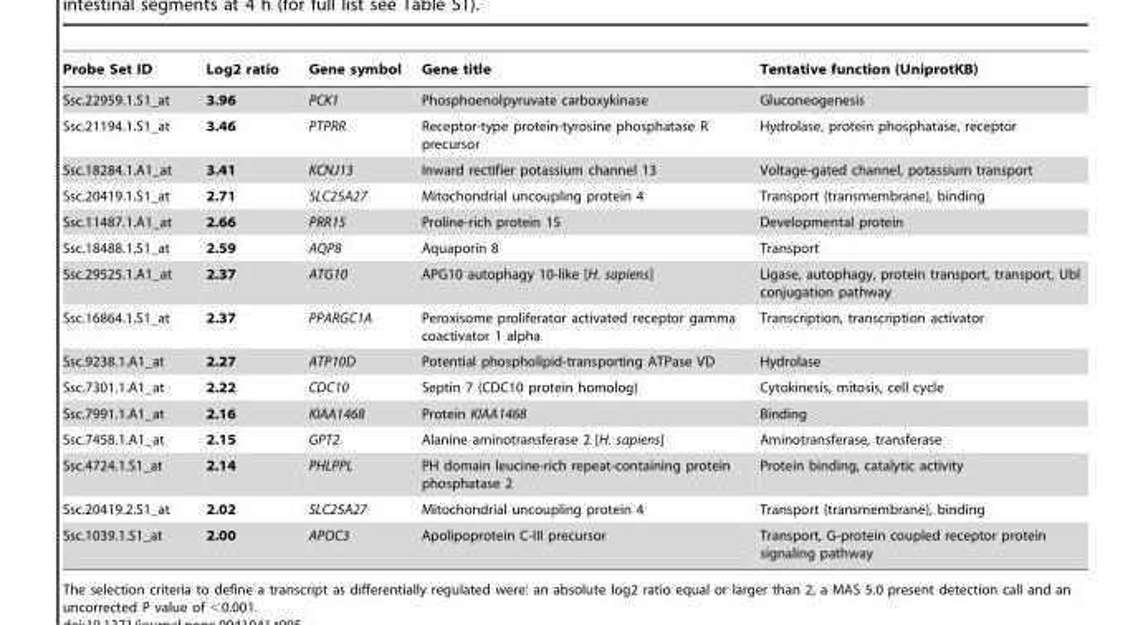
<table><thead><tr><td>Probe Set ID</td><td>Log2 ratio</td><td>Gene symbol</td><td>Gene title</td><td>Tentative function (UniprotKB)</td></tr></thead><tbody><tr><td>Ssc.22959.1.S1_at</td><td>3.96</td><td>PCK1</td><td>Phosphoenolpyruvate carboxykinase</td><td>Gluconeogenesis</td></tr><tr><td>Ssc.21194.1.S1_at</td><td>3.46</td><td>PTPRR</td><td>Receptor-type protein-tyrosine phosphatase R precursor</td><td>Hydrolase, protein phosphatase, receptor</td></tr><tr><td>Ssc.18284.1.A1_at</td><td>3.41</td><td>KCNJ13</td><td>Inward rectifier potassium channel 13</td><td>Voltage-gated channel, potassium transport</td></tr><tr><td>Ssc.20419.1.S1_at</td><td>2.71</td><td>SLC25A27</td><td>Mitochondrial uncoupling protein 4</td><td>Transport (transmembrane), binding</td></tr><tr><td>Ssc.11487.1.A1_at</td><td>2.66</td><td>PRR15</td><td>Proline-rich protein 15</td><td>Developmental protein</td></tr><tr><td>Ssc.18488.1.S1_at</td><td>2.59</td><td>AQP8</td><td>Aquaporin 8</td><td>Transport</td></tr><tr><td>Ssc.29525.1.A1_at</td><td>2.37</td><td>ATG10</td><td>APG10 autophagy 10-like [H. sapiens]</td><td>Ligase, autophagy, protein transport, transport, Ubl conjugation pathway</td></tr><tr><td>Ssc.16864.1.S1_at</td><td>2.37</td><td>PPARGC1A</td><td>Peroxisome proliferator activated receptor gamma coactivator 1 alpha</td><td>Transcription, transcription activator</td></tr><tr><td>Ssc.9238.1.A1_at</td><td>2.27</td><td>ATP10D</td><td>Potential phospholipid-transporting ATPase VD</td><td>Hydrolase</td></tr><tr><td>Ssc.7301.1.A1_at</td><td>2.22</td><td>CDC10</td><td>Septin 7 (CDC10 protein homolog)</td><td>Cytokinesis, mitosis, cell cycle</td></tr><tr><td>Ssc.7991.1.A1_at</td><td>2.16</td><td>KIAA1468</td><td>Protein KIAA1468</td><td>Binding</td></tr><tr><td>Ssc.7458.1.A1_at</td><td>2.15</td><td>GPT2</td><td>Alanine aminotransferase 2 [H. sapiens]</td><td>Aminotransferase, transferase</td></tr><tr><td>Ssc.4724.1.S1_at</td><td>2.14</td><td>PHLPPL</td><td>PH domain leucine-rich repeat-containing protein phosphatase 2</td><td>Protein binding, catalytic activity</td></tr><tr><td>Ssc.20419.2.S1_at</td><td>2.02</td><td>SLC25A27</td><td>Mitochondrial uncoupling protein 4</td><td>Transport (transmembrane), binding</td></tr><tr><td>Ssc.1039.1.S1_at</td><td>2.00</td><td>APOC3</td><td>Apolipoprotein C-III precursor</td><td>Transport, G-protein coupled receptor protein signaling pathway</td></tr></tbody></table>